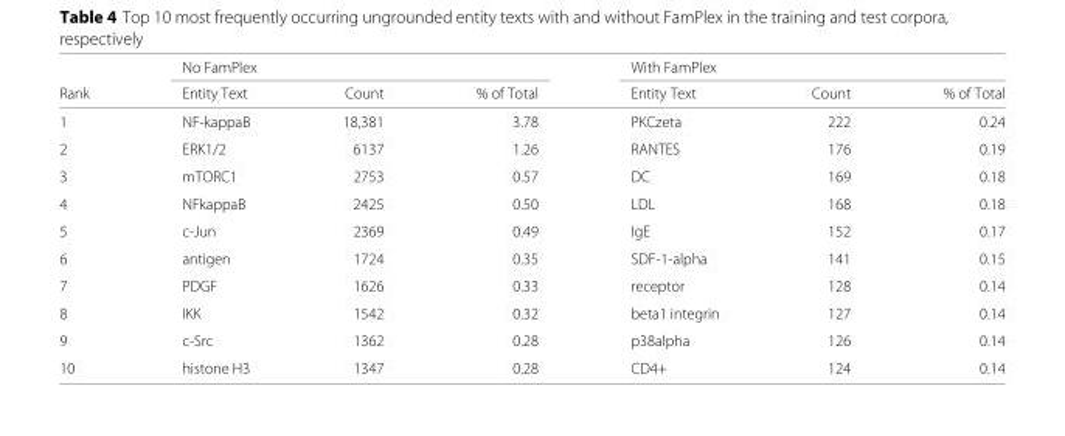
<table><thead><tr><td rowspan="2">Rank</td><td colspan="3">No FamPlex</td><td colspan="3">With FamPlex</td></tr><tr><td>Entity Text</td><td>Count</td><td>% of Total</td><td>Entity Text</td><td>Count</td><td>% of Total</td></tr></thead><tbody><tr><td>1</td><td>NF-kappaB</td><td>18,381</td><td>3.78</td><td>PKCzeta</td><td>222</td><td>0.24</td></tr><tr><td>2</td><td>ERK1/2</td><td>6137</td><td>1.26</td><td>RANTES</td><td>176</td><td>0.19</td></tr><tr><td>3</td><td>mTORC1</td><td>2753</td><td>0.57</td><td>DC</td><td>169</td><td>0.18</td></tr><tr><td>4</td><td>NFkappaB</td><td>2425</td><td>0.50</td><td>LDL</td><td>168</td><td>0.18</td></tr><tr><td>5</td><td>c-Jun</td><td>2369</td><td>0.49</td><td>IgE</td><td>152</td><td>0.17</td></tr><tr><td>6</td><td>antigen</td><td>1724</td><td>0.35</td><td>SDF-1-alpha</td><td>141</td><td>0.15</td></tr><tr><td>7</td><td>PDGF</td><td>1626</td><td>0.33</td><td>receptor</td><td>128</td><td>0.14</td></tr><tr><td>8</td><td>IKK</td><td>1542</td><td>0.32</td><td>beta1 integrin</td><td>127</td><td>0.14</td></tr><tr><td>9</td><td>c-Src</td><td>1362</td><td>0.28</td><td>p38alpha</td><td>126</td><td>0.14</td></tr><tr><td>10</td><td>histone H3</td><td>1347</td><td>0.28</td><td>CD4+</td><td>124</td><td>0.14</td></tr></tbody></table>